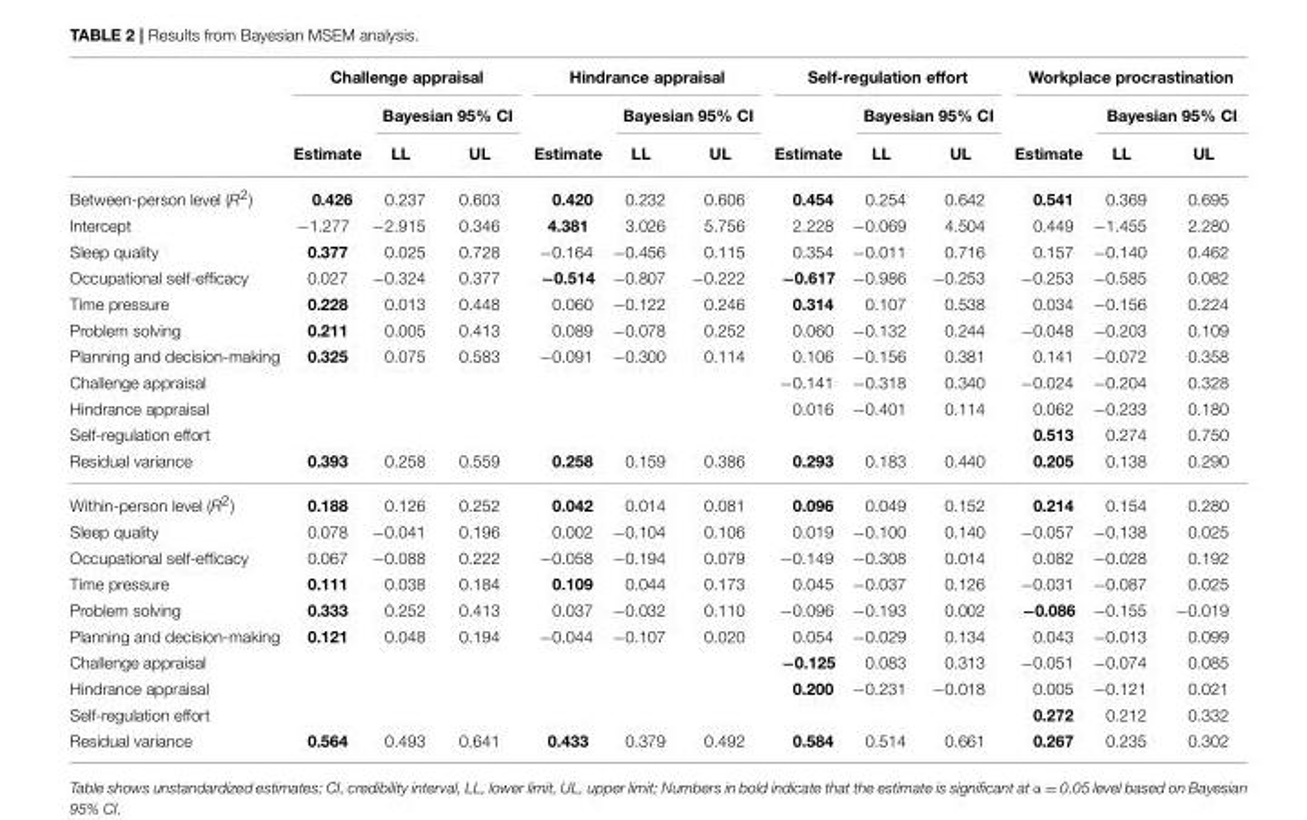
<table><thead><tr><td rowspan="3"></td><td colspan="3">Challenge appraisal</td><td colspan="3">Hindrance appraisal</td><td colspan="3">Self-regulation effort</td><td colspan="3">Workplace procrastination</td></tr><tr><td rowspan="2">Estimate</td><td colspan="2">Bayesian 95% CI</td><td rowspan="2">Estimate</td><td colspan="2">Bayesian 95% CI</td><td rowspan="2">Estimate</td><td colspan="2">Bayesian 95% CI</td><td rowspan="2">Estimate</td><td colspan="2">Bayesian 95% CI</td></tr><tr><td>LL</td><td>UL</td><td>LL</td><td>UL</td><td>LL</td><td>UL</td><td>LL</td><td>UL</td></tr></thead><tbody><tr><td>Between-person level (R<sup>2</sup>)</td><td>0.426</td><td>0.237</td><td>0.603</td><td>0.420</td><td>0.232</td><td>0.606</td><td>0.454</td><td>0.254</td><td>0.642</td><td>0.541</td><td>0.369</td><td>0.695</td></tr><tr><td>Intercept</td><td>−1.277</td><td>−2.915</td><td>0.346</td><td>4.381</td><td>3.026</td><td>5.756</td><td>2.228</td><td>−0.069</td><td>4.504</td><td>0.449</td><td>−1.455</td><td>2.280</td></tr><tr><td>Sleep quality</td><td>0.377</td><td>0.025</td><td>0.728</td><td>−0.164</td><td>−0.456</td><td>0.115</td><td>0.354</td><td>−0.011</td><td>0.716</td><td>0.157</td><td>−0.140</td><td>0.462</td></tr><tr><td>Occupational self-efficacy</td><td>0.027</td><td>−0.324</td><td>0.377</td><td>−0.514</td><td>−0.807</td><td>−0.222</td><td>−0.617</td><td>−0.986</td><td>−0.253</td><td>−0.253</td><td>−0.585</td><td>0.082</td></tr><tr><td>Time pressure</td><td>0.228</td><td>0.013</td><td>0.448</td><td>0.060</td><td>−0.122</td><td>0.246</td><td>0.314</td><td>0.107</td><td>0.538</td><td>0.034</td><td>−0.156</td><td>0.224</td></tr><tr><td>Problem solving</td><td>0.211</td><td>0.005</td><td>0.413</td><td>0.089</td><td>−0.078</td><td>0.252</td><td>0.060</td><td>−0.132</td><td>0.244</td><td>−0.048</td><td>−0.203</td><td>0.109</td></tr><tr><td>Planning and decision-making</td><td>0.325</td><td>0.075</td><td>0.583</td><td>−0.091</td><td>−0.300</td><td>0.114</td><td>0.106</td><td>−0.156</td><td>0.381</td><td>0.141</td><td>−0.072</td><td>0.358</td></tr><tr><td>Challenge appraisal</td><td></td><td></td><td></td><td></td><td></td><td></td><td>−0.141</td><td>−0.318</td><td>0.340</td><td>−0.024</td><td>−0.204</td><td>0.328</td></tr><tr><td>Hindrance appraisal</td><td></td><td></td><td></td><td></td><td></td><td></td><td>0.016</td><td>−0.401</td><td>0.114</td><td>0.062</td><td>−0.233</td><td>0.180</td></tr><tr><td>Self-regulation effort</td><td></td><td></td><td></td><td></td><td></td><td></td><td></td><td></td><td></td><td>0.513</td><td>0.274</td><td>0.750</td></tr><tr><td>Residual variance</td><td>0.393</td><td>0.258</td><td>0.559</td><td>0.258</td><td>0.159</td><td>0.386</td><td>0.293</td><td>0.183</td><td>0.440</td><td>0.205</td><td>0.138</td><td>0.290</td></tr><tr><td>Within-person level (R<sup>2</sup>)</td><td>0.188</td><td>0.126</td><td>0.252</td><td>0.042</td><td>0.014</td><td>0.081</td><td>0.096</td><td>0.049</td><td>0.152</td><td>0.214</td><td>0.154</td><td>0.280</td></tr><tr><td>Sleep quality</td><td>0.078</td><td>−0.041</td><td>0.196</td><td>0.002</td><td>−0.104</td><td>0.106</td><td>0.019</td><td>−0.100</td><td>0.140</td><td>−0.057</td><td>−0.138</td><td>0.025</td></tr><tr><td>Occupational self-efficacy</td><td>0.067</td><td>−0.088</td><td>0.222</td><td>−0.058</td><td>−0.194</td><td>0.079</td><td>−0.149</td><td>−0.308</td><td>0.014</td><td>0.082</td><td>−0.028</td><td>0.192</td></tr><tr><td>Time pressure</td><td>0.111</td><td>0.038</td><td>0.184</td><td>0.109</td><td>0.044</td><td>0.173</td><td>0.045</td><td>−0.037</td><td>0.126</td><td>−0.031</td><td>−0.087</td><td>0.025</td></tr><tr><td>Problem solving</td><td>0.333</td><td>0.252</td><td>0.413</td><td>0.037</td><td>−0.032</td><td>0.110</td><td>−0.096</td><td>−0.193</td><td>0.002</td><td>−0.086</td><td>−0.155</td><td>−0.019</td></tr><tr><td>Planning and decision-making</td><td>0.121</td><td>0.048</td><td>0.194</td><td>−0.044</td><td>−0.107</td><td>0.020</td><td>0.054</td><td>−0.029</td><td>0.134</td><td>0.043</td><td>−0.013</td><td>0.099</td></tr><tr><td>Challenge appraisal</td><td></td><td></td><td></td><td></td><td></td><td></td><td>−0.125</td><td>0.083</td><td>0.313</td><td>−0.051</td><td>−0.074</td><td>0.085</td></tr><tr><td>Hindrance appraisal</td><td></td><td></td><td></td><td></td><td></td><td></td><td>0.200</td><td>−0.231</td><td>−0.018</td><td>0.005</td><td>−0.121</td><td>0.021</td></tr><tr><td>Self-regulation effort</td><td></td><td></td><td></td><td></td><td></td><td></td><td></td><td></td><td></td><td>0.272</td><td>0.212</td><td>0.332</td></tr><tr><td>Residual variance</td><td>0.564</td><td>0.493</td><td>0.641</td><td>0.433</td><td>0.379</td><td>0.492</td><td>0.584</td><td>0.514</td><td>0.661</td><td>0.267</td><td>0.235</td><td>0.302</td></tr></tbody></table>